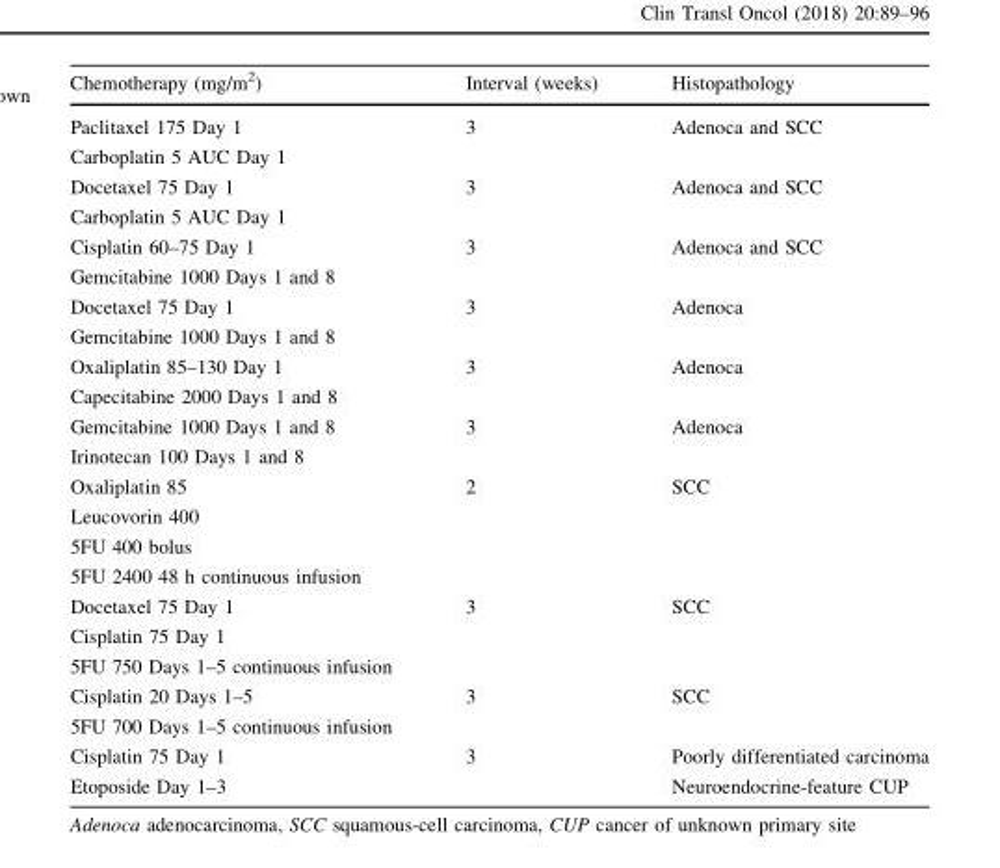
<table><thead><tr><td>Chemotherapy (mg/m<sup>2</sup>)</td><td>Interval (weeks)</td><td>Histopathology</td></tr></thead><tbody><tr><td>Paclitaxel 175 Day 1 Carboplatin 5 AUC Day 1</td><td>3</td><td>Adenoca and SCC</td></tr><tr><td>Docetaxel 75 Day 1 Carboplatin 5 AUC Day 1</td><td>3</td><td>Adenoca and SCC</td></tr><tr><td>Cisplatin 60–75 Day 1 Gemcitabine 1000 Days 1 and 8</td><td>3</td><td>Adenoca and SCC</td></tr><tr><td>Docetaxel 75 Day 1 Gemcitabine 1000 Days 1 and 8</td><td>3</td><td>Adenoca</td></tr><tr><td>Oxaliplatin 85–130 Day 1 Capecitabine 2000 Days 1 and 8</td><td>3</td><td>Adenoca</td></tr><tr><td>Gemcitabine 1000 Days 1 and 8 Irinotecan 100 Days 1 and 8</td><td>3</td><td>Adenoca</td></tr><tr><td>Oxaliplatin 85 Leucovorin 400 5FU 400 bolus 5FU 2400 48 h continuous infusion</td><td>2</td><td>SCC</td></tr><tr><td>Docetaxel 75 Day 1 Cisplatin 75 Day 1 5FU 750 Days 1–5 continuous infusion</td><td>3</td><td>SCC</td></tr><tr><td>Cisplatin 20 Days 1–5 5FU 700 Days 1–5 continuous infusion</td><td>3</td><td>SCC</td></tr><tr><td>Cisplatin 75 Day 1 Etoposide Day 1–3</td><td>3</td><td>Poorly differentiated carcinoma Neuroendocrine-feature CUP</td></tr></tbody></table>